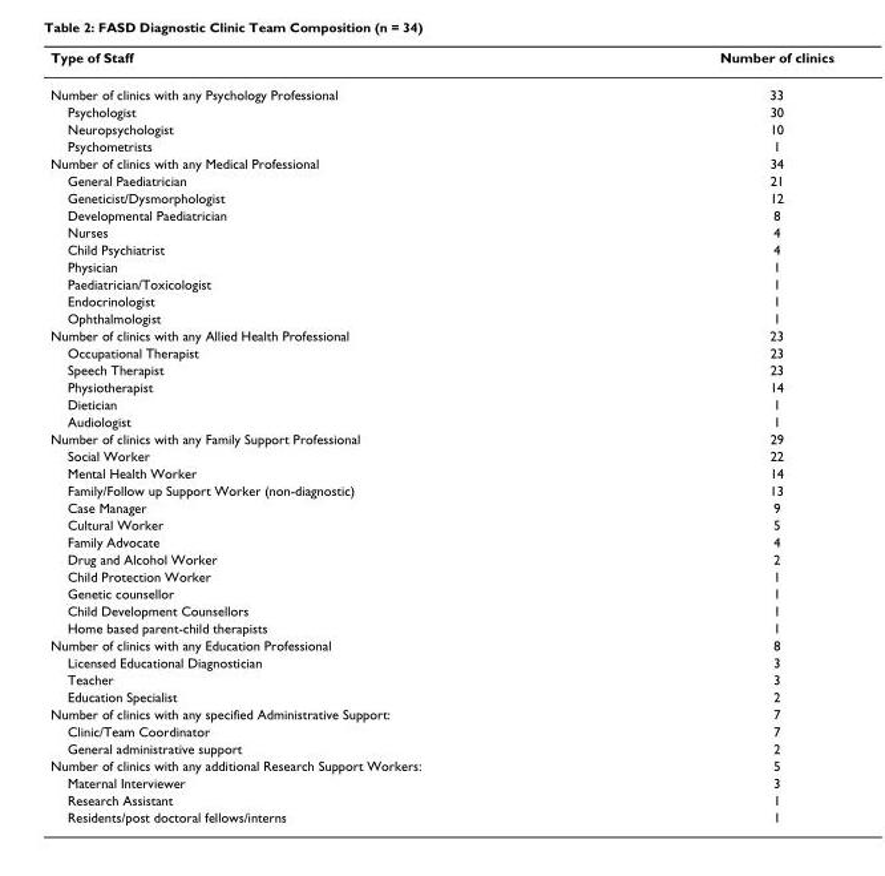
<table><thead><tr><td>Type of Staff</td><td>Number of clinics</td></tr></thead><tbody><tr><td>Number of clinics with any Psychology Professional</td><td>33</td></tr><tr><td>Psychologist</td><td>30</td></tr><tr><td>Neuropsychologist</td><td>10</td></tr><tr><td>Psychometrists</td><td>1</td></tr><tr><td>Number of clinics with any Medical Professional</td><td>34</td></tr><tr><td>General Paediatrician</td><td>21</td></tr><tr><td>Geneticist/Dysmorphologist</td><td>12</td></tr><tr><td>Developmental Paediatrician</td><td>8</td></tr><tr><td>Nurses</td><td>4</td></tr><tr><td>Child Psychiatrist</td><td>4</td></tr><tr><td>Physician</td><td>1</td></tr><tr><td>Paediatrician/Toxicologist</td><td>1</td></tr><tr><td>Endocrinologist</td><td>1</td></tr><tr><td>Ophthalmologist</td><td>1</td></tr><tr><td>Number of clinics with any Allied Health Professional</td><td>23</td></tr><tr><td>Occupational Therapist</td><td>23</td></tr><tr><td>Speech Therapist</td><td>23</td></tr><tr><td>Physiotherapist</td><td>14</td></tr><tr><td>Dietician</td><td>1</td></tr><tr><td>Audiologist</td><td>1</td></tr><tr><td>Number of clinics with any Family Support Professional</td><td>29</td></tr><tr><td>Social Worker</td><td>22</td></tr><tr><td>Mental Health Worker</td><td>14</td></tr><tr><td>Family/Follow up Support Worker (non-diagnostic)</td><td>13</td></tr><tr><td>Case Manager</td><td>9</td></tr><tr><td>Cultural Worker</td><td>5</td></tr><tr><td>Family Advocate</td><td>4</td></tr><tr><td>Drug and Alcohol Worker</td><td>2</td></tr><tr><td>Child Protection Worker</td><td>1</td></tr><tr><td>Genetic counsellor</td><td>1</td></tr><tr><td>Child Development Counsellors</td><td>1</td></tr><tr><td>Home based parent-child therapists</td><td>1</td></tr><tr><td>Number of clinics with any Education Professional</td><td>8</td></tr><tr><td>Licensed Educational Diagnostician</td><td>3</td></tr><tr><td>Teacher</td><td>3</td></tr><tr><td>Education Specialist</td><td>2</td></tr><tr><td>Number of clinics with any specified Administrative Support:</td><td>7</td></tr><tr><td>Clinic/Team Coordinator</td><td>7</td></tr><tr><td>General administrative support</td><td>2</td></tr><tr><td>Number of clinics with any additional Research Support Workers:</td><td>5</td></tr><tr><td>Maternal Interviewer</td><td>3</td></tr><tr><td>Research Assistant</td><td>1</td></tr><tr><td>Residents/post doctoral fellows/interns</td><td>1</td></tr></tbody></table>